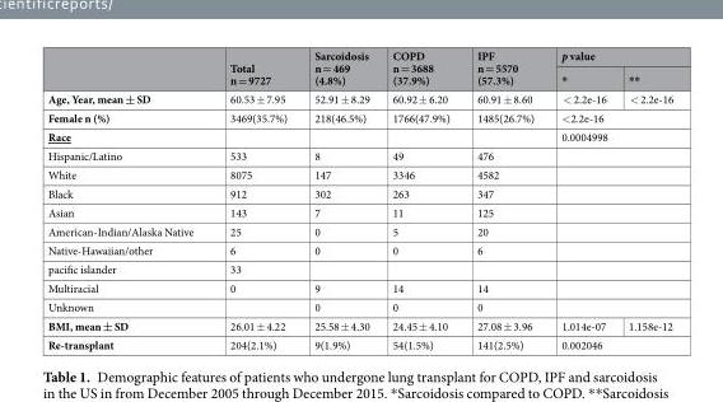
<table><thead><tr><td rowspan="2"></td><td rowspan="2">Total n = 9727</td><td rowspan="2">Sarcoidosis n = 469 (4.8%)</td><td rowspan="2">COPD n = 3688 (37.9%)</td><td rowspan="2">IPF n = 5570 (57.3%)</td><td colspan="2">p value</td></tr><tr><td>*</td><td>**</td></tr></thead><tbody><tr><td>Age, Year, mean ± SD</td><td>60.53 ± 7.95</td><td>52.91 ± 8.29</td><td>60.92 ± 6.20</td><td>60.91 ± 8.60</td><td>&lt; 2.2e-16</td><td>&lt; 2.2e-16</td></tr><tr><td>Female n (%)</td><td>3469(35.7%)</td><td>218(46.5%)</td><td>1766(47.9%)</td><td>1485(26.7%)</td><td colspan="2">&lt;2.2e-16</td></tr><tr><td>Race</td><td></td><td></td><td></td><td></td><td colspan="2">0.0004998</td></tr><tr><td>Hispanic/Latino</td><td>533</td><td>8</td><td>49</td><td>476</td><td colspan="2"></td></tr><tr><td>White</td><td>8075</td><td>147</td><td>3346</td><td>4582</td><td colspan="2"></td></tr><tr><td>Black</td><td>912</td><td>302</td><td>263</td><td>347</td><td colspan="2"></td></tr><tr><td>Asian</td><td>143</td><td>7</td><td>11</td><td>125</td><td colspan="2"></td></tr><tr><td>American-Indian/Alaska Native</td><td>25</td><td>0</td><td>5</td><td>20</td><td colspan="2"></td></tr><tr><td>Native-Hawaiian/other</td><td>6</td><td>0</td><td>0</td><td>6</td><td colspan="2"></td></tr><tr><td>pacific islander</td><td>33</td><td></td><td></td><td></td><td colspan="2"></td></tr><tr><td>Multiracial</td><td>0</td><td>9</td><td>14</td><td>14</td><td colspan="2"></td></tr><tr><td>Unknown</td><td></td><td>0</td><td>0</td><td>0</td><td colspan="2"></td></tr><tr><td>BMI, mean ± SD</td><td>26.01 ± 4.22</td><td>25.58 ± 4.30</td><td>24.45 ± 4.10</td><td>27.08 ± 3.96</td><td>1.014e-07</td><td>1.158e-12</td></tr><tr><td>Re-transplant</td><td>204(2.1%)</td><td>9(1.9%)</td><td>54(1.5%)</td><td>141(2.5%)</td><td colspan="2">0.002046</td></tr></tbody></table>